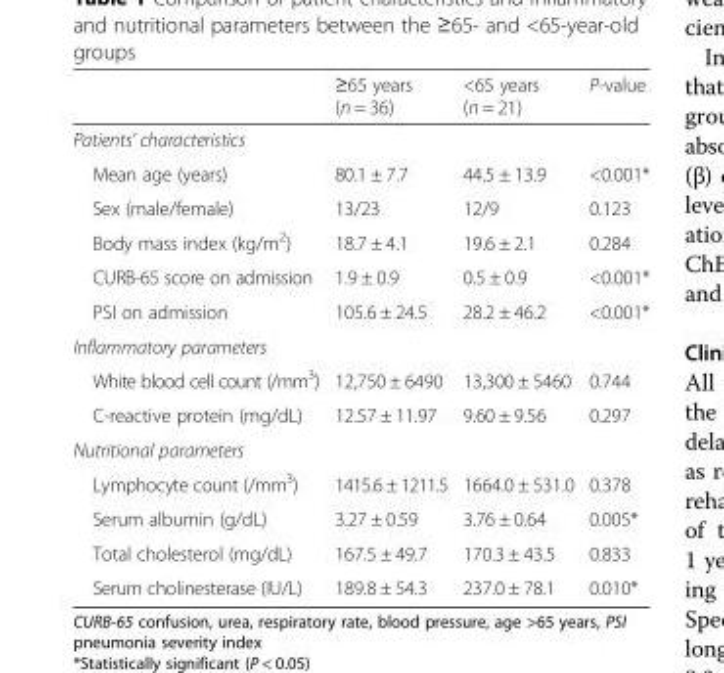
<table><thead><tr><td></td><td>≥65 years (n = 36)</td><td>&lt;65 years (n = 21)</td><td>P-value</td></tr></thead><tbody><tr><td colspan="4">Patients’ characteristics</td></tr><tr><td>Mean age (years)</td><td>80.1 ± 7.7</td><td>44.5 ± 13.9</td><td>&lt;0.001*</td></tr><tr><td>Sex (male/female)</td><td>13/23</td><td>12/9</td><td>0.123</td></tr><tr><td>Body mass index (kg/m<sup>2</sup>)</td><td>18.7 ± 4.1</td><td>19.6 ± 2.1</td><td>0.284</td></tr><tr><td>CURB-65 score on admission</td><td>1.9 ± 0.9</td><td>0.5 ± 0.9</td><td>&lt;0.001*</td></tr><tr><td>PSI on admission</td><td>105.6 ± 24.5</td><td>28.2 ± 46.2</td><td>&lt;0.001*</td></tr><tr><td colspan="4">Inflammatory parameters</td></tr><tr><td>White blood cell count (/mm<sup>3</sup>)</td><td>12,750 ± 6490</td><td>13,300 ± 5460</td><td>0.744</td></tr><tr><td>C-reactive protein (mg/dL)</td><td>12.57 ± 11.97</td><td>9.60 ± 9.56</td><td>0.297</td></tr><tr><td colspan="4">Nutritional parameters</td></tr><tr><td>Lymphocyte count (/mm<sup>3</sup>)</td><td>1415.6 ± 1211.5</td><td>1664.0 ± 531.0</td><td>0.378</td></tr><tr><td>Serum albumin (g/dL)</td><td>3.27 ± 0.59</td><td>3.76 ± 0.64</td><td>0.005*</td></tr><tr><td>Total cholesterol (mg/dL)</td><td>167.5 ± 49.7</td><td>170.3 ± 43.5</td><td>0.833</td></tr><tr><td>Serum cholinesterase (IU/L)</td><td>189.8 ± 54.3</td><td>237.0 ± 78.1</td><td>0.010*</td></tr></tbody></table>